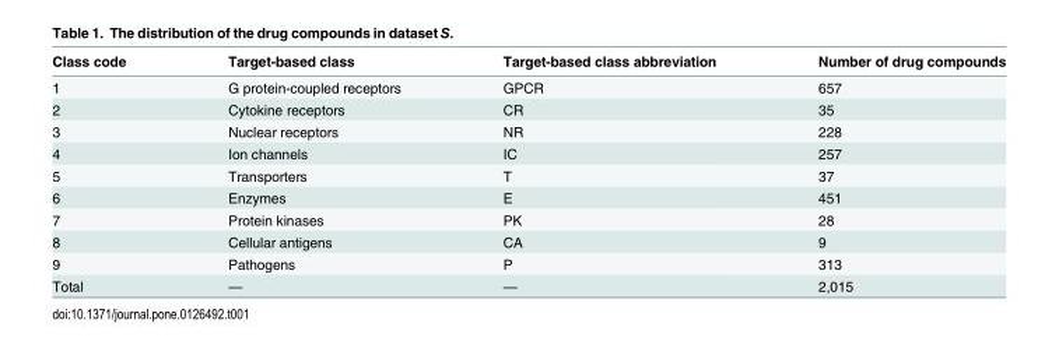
<table><thead><tr><td>Class code</td><td>Target-based class</td><td>Target-based class abbreviation</td><td>Number of drug compounds</td></tr></thead><tbody><tr><td>1</td><td>G protein-coupled receptors</td><td>GPCR</td><td>657</td></tr><tr><td>2</td><td>Cytokine receptors</td><td>CR</td><td>35</td></tr><tr><td>3</td><td>Nuclear receptors</td><td>NR</td><td>228</td></tr><tr><td>4</td><td>Ion channels</td><td>IC</td><td>257</td></tr><tr><td>5</td><td>Transporters</td><td>T</td><td>37</td></tr><tr><td>6</td><td>Enzymes</td><td>E</td><td>451</td></tr><tr><td>7</td><td>Protein kinases</td><td>PK</td><td>28</td></tr><tr><td>8</td><td>Cellular antigens</td><td>CA</td><td>9</td></tr><tr><td>9</td><td>Pathogens</td><td>P</td><td>313</td></tr><tr><td>Total</td><td>—</td><td>—</td><td>2,015</td></tr></tbody></table>